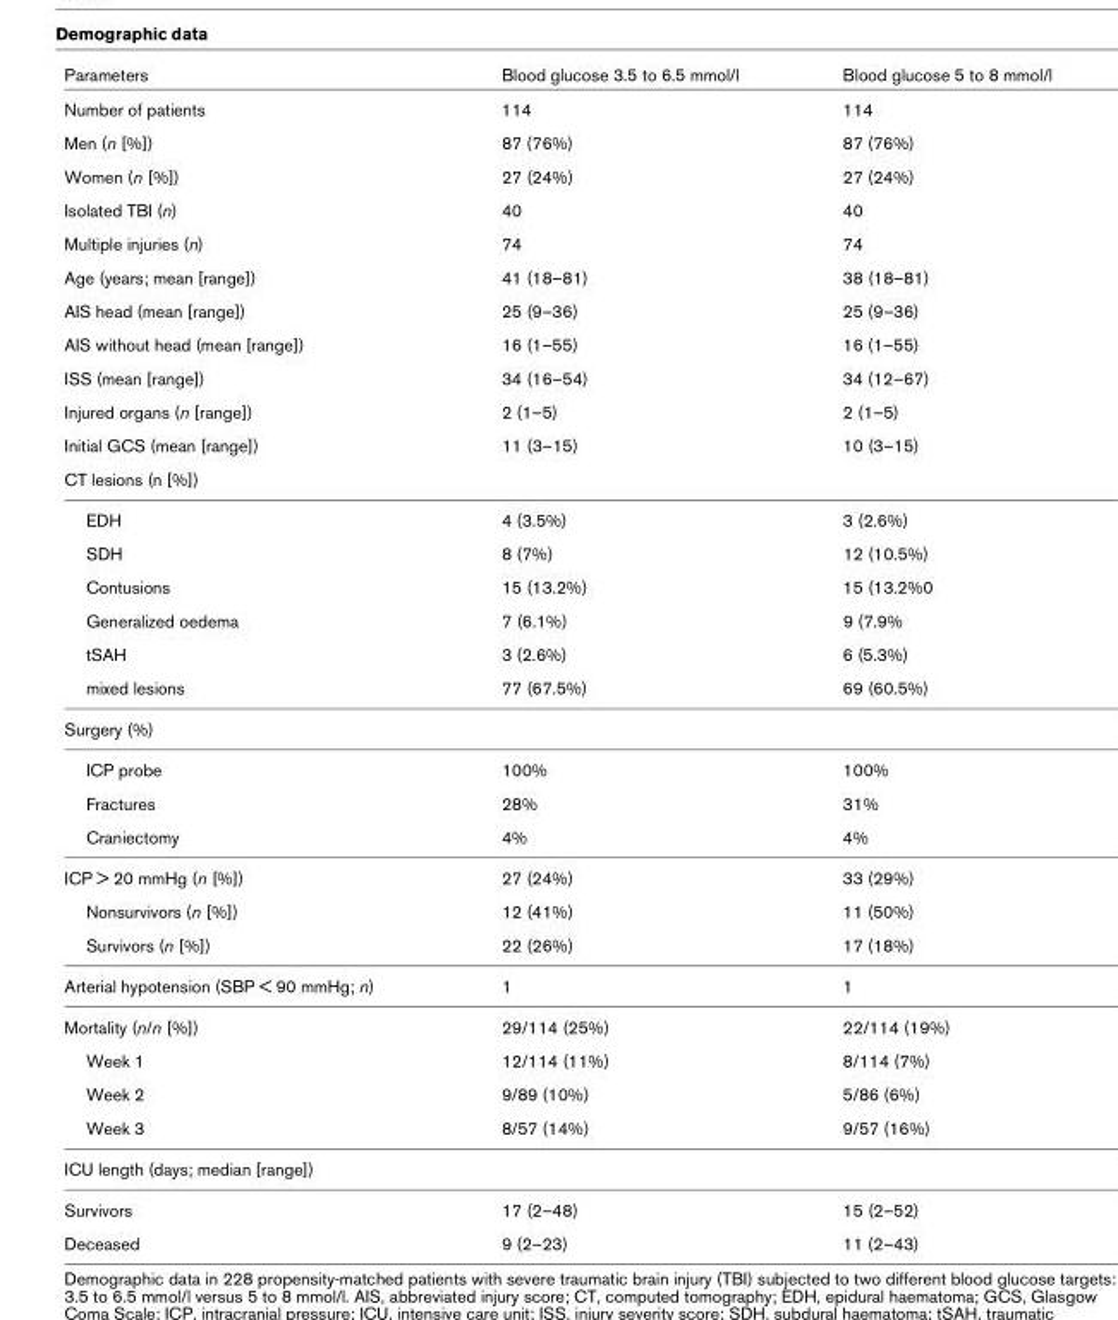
<table><thead><tr><td>Parameters</td><td>Blood glucose 3.5 to 6.5 mmol/l</td><td>Blood glucose 5 to 8 mmol/l</td></tr></thead><tbody><tr><td>Number of patients</td><td>114</td><td>114</td></tr><tr><td>Men (n [%])</td><td>87 (76%)</td><td>87 (76%)</td></tr><tr><td>Women (n [%])</td><td>27 (24%)</td><td>27 (24%)</td></tr><tr><td>Isolated TBI (n)</td><td>40</td><td>40</td></tr><tr><td>Multiple injuries (n)</td><td>74</td><td>74</td></tr><tr><td>Age (years; mean [range])</td><td>41 (18–81)</td><td>38 (18–81)</td></tr><tr><td>AIS head (mean [range])</td><td>25 (9–36)</td><td>25 (9–36)</td></tr><tr><td>AIS without head (mean [range])</td><td>16 (1–55)</td><td>16 (1–55)</td></tr><tr><td>ISS (mean [range])</td><td>34 (16–54)</td><td>34 (12–67)</td></tr><tr><td>Injured organs (n [range])</td><td>2 (1–5)</td><td>2 (1–5)</td></tr><tr><td>Initial GCS (mean [range])</td><td>11 (3–15)</td><td>10 (3–15)</td></tr><tr><td colspan="3">CT lesions (n [%])</td></tr><tr><td>EDH</td><td>4 (3.5%)</td><td>3 (2.6%)</td></tr><tr><td>SDH</td><td>8 (7%)</td><td>12 (10.5%)</td></tr><tr><td>Contusions</td><td>15 (13.2%)</td><td>15 (13.2%0</td></tr><tr><td>Generalized oedema</td><td>7 (6.1%)</td><td>9 (7.9%</td></tr><tr><td>tSAH</td><td>3 (2.6%)</td><td>6 (5.3%)</td></tr><tr><td>mixed lesions</td><td>77 (67.5%)</td><td>69 (60.5%)</td></tr><tr><td colspan="3">Surgery (%)</td></tr><tr><td>ICP probe</td><td>100%</td><td>100%</td></tr><tr><td>Fractures</td><td>28%</td><td>31%</td></tr><tr><td>Craniectomy</td><td>4%</td><td>4%</td></tr><tr><td>ICP &gt; 20 mmHg (n [%])</td><td>27 (24%)</td><td>33 (29%)</td></tr><tr><td>Nonsurvivors (n [%])</td><td>12 (41%)</td><td>11 (50%)</td></tr><tr><td>Survivors (n [%])</td><td>22 (26%)</td><td>17 (18%)</td></tr><tr><td>Arterial hypotension (SBP &lt; 90 mmHg; n)</td><td>1</td><td>1</td></tr><tr><td>Mortality (n/n [%])</td><td>29/114 (25%)</td><td>22/114 (19%)</td></tr><tr><td>Week 1</td><td>12/114 (11%)</td><td>8/114 (7%)</td></tr><tr><td>Week 2</td><td>9/89 (10%)</td><td>5/86 (6%)</td></tr><tr><td>Week 3</td><td>8/57 (14%)</td><td>9/57 (16%)</td></tr><tr><td colspan="3">ICU length (days; median [range])</td></tr><tr><td>Survivors</td><td>17 (2–48)</td><td>15 (2–52)</td></tr><tr><td>Deceased</td><td>9 (2–23)</td><td>11 (2–43)</td></tr></tbody></table>